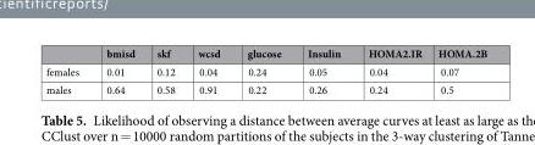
<table><thead><tr><td></td><td>bmisd</td><td>skf</td><td>wcsd</td><td>glucose</td><td>Insulin</td><td>HOMA2.IR</td><td>HOMA.2B</td></tr></thead><tbody><tr><td>females</td><td>0.01</td><td>0.12</td><td>0.04</td><td>0.24</td><td>0.05</td><td>0.04</td><td>0.07</td></tr><tr><td>males</td><td>0.64</td><td>0.58</td><td>0.91</td><td>0.22</td><td>0.26</td><td>0.24</td><td>0.5</td></tr></tbody></table>